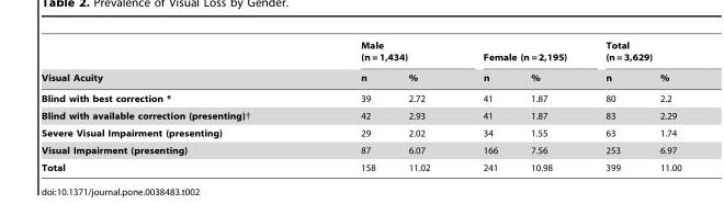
<table><thead><tr><td rowspan="2">Visual Acuity</td><td colspan="2">Male (n = 1,434)</td><td colspan="2">Female (n = 2,195)</td><td colspan="2">Total (n = 3,629)</td></tr><tr><td>n</td><td>%</td><td>n</td><td>%</td><td>n</td><td>%</td></tr></thead><tbody><tr><td>Blind with best correction *</td><td>39</td><td>2.72</td><td>41</td><td>1.87</td><td>80</td><td>2.2</td></tr><tr><td>Blind with available correction (presenting)†</td><td>42</td><td>2.93</td><td>41</td><td>1.87</td><td>83</td><td>2.29</td></tr><tr><td>Severe Visual Impairment (presenting)</td><td>29</td><td>2.02</td><td>34</td><td>1.55</td><td>63</td><td>1.74</td></tr><tr><td>Visual Impairment (presenting)</td><td>87</td><td>6.07</td><td>166</td><td>7.56</td><td>253</td><td>6.97</td></tr><tr><td>Total</td><td>158</td><td>11.02</td><td>241</td><td>10.98</td><td>399</td><td>11.00</td></tr></tbody></table>